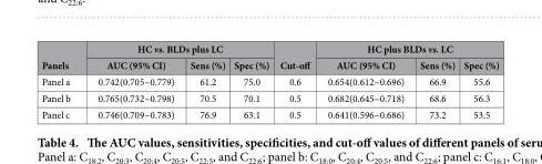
<table><thead><tr><td rowspan="2">Panels</td><td colspan="3">HC vs. BLDs plus LC</td><td rowspan="2">Cut-off</td><td colspan="3">HC plus BLDs vs. LC</td></tr><tr><td>AUC (95% CI)</td><td>Sens (%)</td><td>Spec (%)</td><td>AUC (95% CI)</td><td>Sens (%)</td><td>Spec (%)</td></tr></thead><tbody><tr><td>Panel a</td><td>0.742(0.705~0.779)</td><td>61.2</td><td>75.0</td><td>0.6</td><td>0.654(0.612~0.696)</td><td>66.9</td><td>55.6</td></tr><tr><td>Panel b</td><td>0.765(0.732~0.798)</td><td>70.5</td><td>70.1</td><td>0.5</td><td>0.682(0.645~0.718)</td><td>68.6</td><td>56.3</td></tr><tr><td>Panel c</td><td>0.746(0.709~0.783)</td><td>76.9</td><td>63.1</td><td>0.5</td><td>0.641(0.596~0.686)</td><td>73.2</td><td>53.5</td></tr></tbody></table>